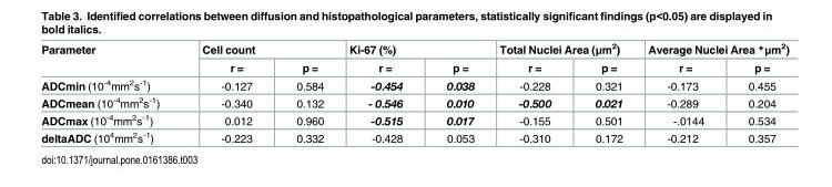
<table><thead><tr><td rowspan="2">Parameter</td><td colspan="2">Cell count</td><td colspan="2">Ki-67 (%)</td><td colspan="2">Total Nuclei Area (μm<sup>2</sup>)</td><td colspan="2">Average Nuclei Area *μm<sup>2</sup>)</td></tr><tr><td>r =</td><td>p =</td><td>r =</td><td>p =</td><td>r =</td><td>p =</td><td>r =</td><td>p =</td></tr></thead><tbody><tr><td>ADCmin (10<sup>-4</sup>mm<sup>2</sup>s<sup>-1</sup>)</td><td>-0.127</td><td>0.584</td><td>-0.454</td><td>0.038</td><td>-0.228</td><td>0.321</td><td>-0.173</td><td>0.455</td></tr><tr><td>ADCmean (10<sup>-4</sup>mm<sup>2</sup>s<sup>-1</sup>)</td><td>-0.340</td><td>0.132</td><td>- 0.546</td><td>0.010</td><td>-0.500</td><td>0.021</td><td>-0.289</td><td>0.204</td></tr><tr><td>ADCmax (10<sup>-4</sup>mm<sup>2</sup>s<sup>-1</sup>)</td><td>0.012</td><td>0.960</td><td>-0.515</td><td>0.017</td><td>-0.155</td><td>0.501</td><td>-.0144</td><td>0.534</td></tr><tr><td>deltaADC (10<sup>4</sup>mm<sup>2</sup>s<sup>-1</sup>)</td><td>-0.223</td><td>0.332</td><td>-0.428</td><td>0.053</td><td>-0.310</td><td>0.172</td><td>-0.212</td><td>0.357</td></tr></tbody></table>